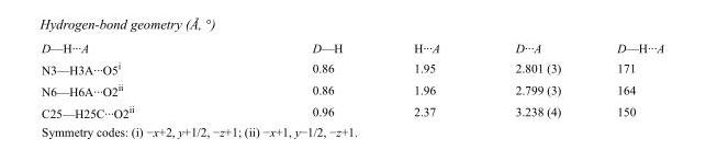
<table><tbody><tr><td>D—H···A</td><td>D—H</td><td>H···A</td><td>D···A</td><td>D—H···A</td></tr><tr><td>N3—H3A···O5<sup>i</sup></td><td>0.86</td><td>1.95</td><td>2.801 (3)</td><td>171</td></tr><tr><td>N6—H6A···O2<sup>ii</sup></td><td>0.86</td><td>1.96</td><td>2.799 (3)</td><td>164</td></tr><tr><td>C25—H25C···O2<sup>ii</sup></td><td>0.96</td><td>2.37</td><td>3.238 (4)</td><td>150</td></tr></tbody></table>